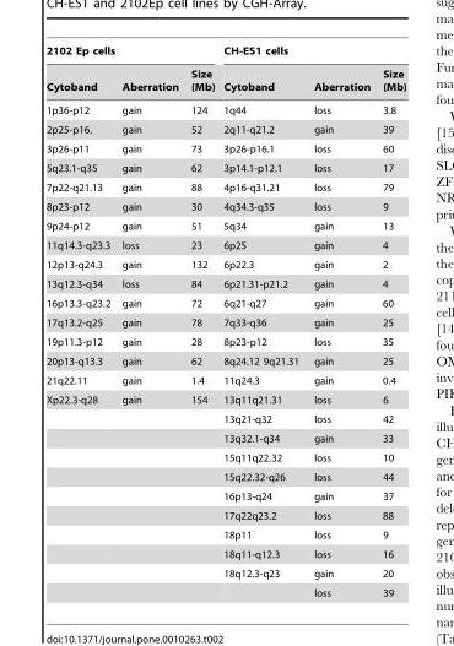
<table><thead><tr><td colspan="3">2102 Ep cells</td><td colspan="3">CH-ES1 cells</td></tr><tr><td>Cytoband</td><td>Aberration</td><td>Size (Mb)</td><td>Cytoband</td><td>Aberration</td><td>Size (Mb)</td></tr></thead><tbody><tr><td>1p36-p12</td><td>gain</td><td>124</td><td>1q44</td><td>loss</td><td>3.8</td></tr><tr><td>2p25-p16.</td><td>gain</td><td>52</td><td>2q11-q21.2</td><td>gain</td><td>39</td></tr><tr><td>3p26-p11</td><td>gain</td><td>73</td><td>3p26-p16.1</td><td>loss</td><td>60</td></tr><tr><td>5q23.1-q35</td><td>gain</td><td>62</td><td>3p14.1-p12.1</td><td>loss</td><td>17</td></tr><tr><td>7p22-q21.13</td><td>gain</td><td>88</td><td>4p16-q31.21</td><td>loss</td><td>79</td></tr><tr><td>8p23-p12</td><td>gain</td><td>30</td><td>4q34.3-q35</td><td>loss</td><td>9</td></tr><tr><td>9p24-p12</td><td>gain</td><td>51</td><td>5q34</td><td>gain</td><td>13</td></tr><tr><td>11q14.3-q23.3</td><td>loss</td><td>23</td><td>6p25</td><td>gain</td><td>4</td></tr><tr><td>12p13-q24.3</td><td>gain</td><td>132</td><td>6p22.3</td><td>gain</td><td>2</td></tr><tr><td>13q12.3-q34</td><td>loss</td><td>84</td><td>6p21.31-p21.2</td><td>gain</td><td>4</td></tr><tr><td>16p13.3-q23.2</td><td>gain</td><td>72</td><td>6q21-q27</td><td>gain</td><td>60</td></tr><tr><td>17q13.2-q25</td><td>gain</td><td>78</td><td>7q33-q36</td><td>gain</td><td>25</td></tr><tr><td>19p11.3-p12</td><td>gain</td><td>28</td><td>8p23-p12</td><td>loss</td><td>35</td></tr><tr><td>20p13-q13.3</td><td>gain</td><td>62</td><td>8q24.12 9q21.31</td><td>gain</td><td>25</td></tr><tr><td>21q22.11</td><td>gain</td><td>1.4</td><td>11q24.3</td><td>gain</td><td>0.4</td></tr><tr><td rowspan="11">Xp22.3-q28</td><td>gain</td><td>154</td><td>13q11q21.31</td><td>loss</td><td>6</td></tr><tr><td></td><td></td><td>13q21-q32</td><td>loss</td><td>42</td></tr><tr><td></td><td></td><td>13q32.1-q34</td><td>gain</td><td>33</td></tr><tr><td></td><td></td><td>15q11q22.32</td><td>loss</td><td>10</td></tr><tr><td></td><td></td><td>15q22.32-q26</td><td>loss</td><td>44</td></tr><tr><td></td><td></td><td>16p13-q24</td><td>gain</td><td>37</td></tr><tr><td></td><td></td><td>17q22q23.2</td><td>loss</td><td>88</td></tr><tr><td></td><td></td><td>18p11</td><td>loss</td><td>9</td></tr><tr><td></td><td></td><td>18q11-q12.3</td><td>loss</td><td>16</td></tr><tr><td></td><td></td><td>18q12.3-q23</td><td>gain</td><td>20</td></tr><tr><td></td><td></td><td></td><td>loss</td><td>39</td></tr></tbody></table>